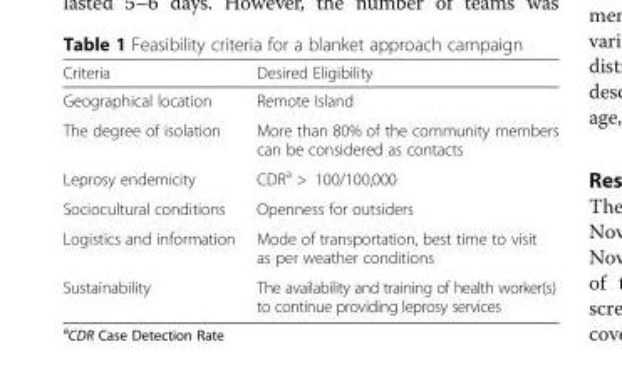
<table><thead><tr><td>Criteria</td><td>Desired Eligibility</td></tr></thead><tbody><tr><td>Geographical location</td><td>Remote Island</td></tr><tr><td>The degree of isolation</td><td>More than 80% of the community members can be considered as contacts</td></tr><tr><td>Leprosy endemicity</td><td>CDR<sup>a</sup> &gt; 100/100,000</td></tr><tr><td>Sociocultural conditions</td><td>Openness for outsiders</td></tr><tr><td>Logistics and information</td><td>Mode of transportation, best time to visit as per weather conditions</td></tr><tr><td>Sustainability</td><td>The availability and training of health worker(s) to continue providing leprosy services</td></tr></tbody></table>